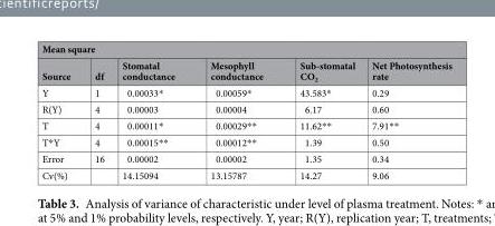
<table><thead><tr><td colspan="6">Mean square</td></tr><tr><td>Source</td><td>df</td><td>Stomatal conductance</td><td>Mesophyll conductance</td><td>Sub-stomatal CO<sub>2</sub></td><td>Net Photosynthesis rate</td></tr></thead><tbody><tr><td>Y</td><td>1</td><td>0.00033*</td><td>0.00059*</td><td>43.583*</td><td>0.29</td></tr><tr><td>R(Y)</td><td>4</td><td>0.00003</td><td>0.00004</td><td>6.17</td><td>0.60</td></tr><tr><td>T</td><td>4</td><td>0.00011*</td><td>0.00029**</td><td>11.62**</td><td>7.91**</td></tr><tr><td>T*Y</td><td>4</td><td>0.00015**</td><td>0.00012**</td><td>1.39</td><td>0.50</td></tr><tr><td>Error</td><td>16</td><td>0.00002</td><td>0.00002</td><td>1.35</td><td>0.34</td></tr><tr><td>Cv(%)</td><td></td><td>14.15094</td><td>13.15787</td><td>14.27</td><td>9.06</td></tr></tbody></table>